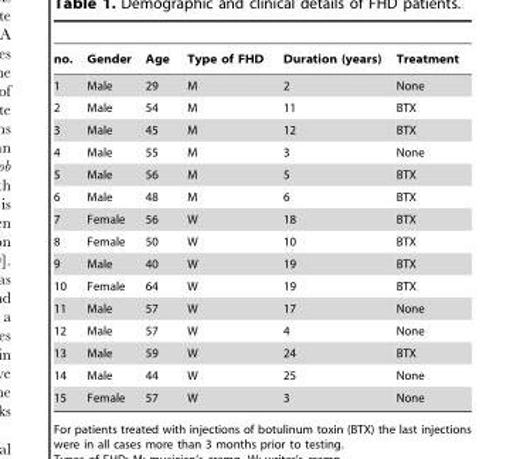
<table><thead><tr><td>no.</td><td>Gender</td><td>Age</td><td>Type of FHD</td><td>Duration (years)</td><td>Treatment</td></tr></thead><tbody><tr><td>1</td><td>Male</td><td>29</td><td>M</td><td>2</td><td>None</td></tr><tr><td>2</td><td>Male</td><td>54</td><td>M</td><td>11</td><td>BTX</td></tr><tr><td>3</td><td>Male</td><td>45</td><td>M</td><td>12</td><td>BTX</td></tr><tr><td>4</td><td>Male</td><td>55</td><td>M</td><td>3</td><td>None</td></tr><tr><td>5</td><td>Male</td><td>56</td><td>M</td><td>5</td><td>BTX</td></tr><tr><td>6</td><td>Male</td><td>48</td><td>M</td><td>6</td><td>BTX</td></tr><tr><td>7</td><td>Female</td><td>56</td><td>W</td><td>18</td><td>BTX</td></tr><tr><td>8</td><td>Female</td><td>50</td><td>W</td><td>10</td><td>BTX</td></tr><tr><td>9</td><td>Male</td><td>40</td><td>W</td><td>19</td><td>BTX</td></tr><tr><td>10</td><td>Female</td><td>64</td><td>W</td><td>19</td><td>BTX</td></tr><tr><td>11</td><td>Male</td><td>57</td><td>W</td><td>17</td><td>None</td></tr><tr><td>12</td><td>Male</td><td>57</td><td>W</td><td>4</td><td>None</td></tr><tr><td>13</td><td>Male</td><td>59</td><td>W</td><td>24</td><td>BTX</td></tr><tr><td>14</td><td>Male</td><td>44</td><td>W</td><td>25</td><td>None</td></tr><tr><td>15</td><td>Female</td><td>57</td><td>W</td><td>3</td><td>None</td></tr></tbody></table>